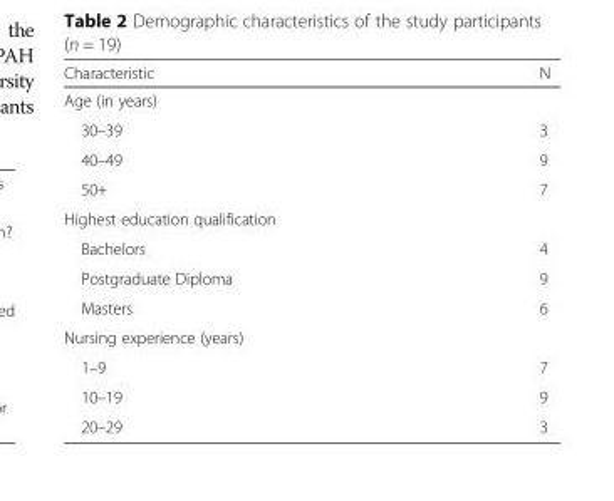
<table><thead><tr><td>Characteristic</td><td>N</td></tr></thead><tbody><tr><td colspan="2">Age (in years)</td></tr><tr><td>30–39</td><td>3</td></tr><tr><td>40–49</td><td>9</td></tr><tr><td>50+</td><td>7</td></tr><tr><td colspan="2">Highest education qualification</td></tr><tr><td>Bachelors</td><td>4</td></tr><tr><td>Postgraduate Diploma</td><td>9</td></tr><tr><td>Masters</td><td>6</td></tr><tr><td colspan="2">Nursing experience (years)</td></tr><tr><td>1–9</td><td>7</td></tr><tr><td>10–19</td><td>9</td></tr><tr><td>20–29</td><td>3</td></tr></tbody></table>